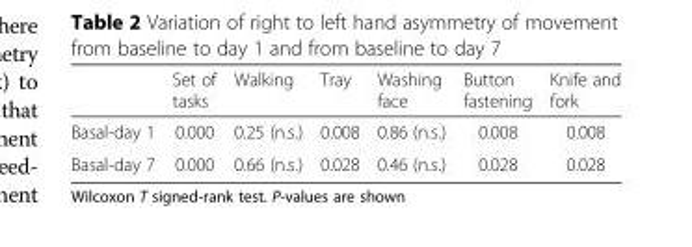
<table><thead><tr><td></td><td>Set of tasks</td><td>Walking</td><td>Tray</td><td>Washing face</td><td>Button fastening</td><td>Knife and fork</td></tr></thead><tbody><tr><td>Basal-day 1</td><td>0.000</td><td>0.25 (n.s.)</td><td>0.008</td><td>0.86 (n.s.)</td><td>0.008</td><td>0.008</td></tr><tr><td>Basal-day 7</td><td>0.000</td><td>0.66 (n.s.)</td><td>0.028</td><td>0.46 (n.s.)</td><td>0.028</td><td>0.028</td></tr></tbody></table>